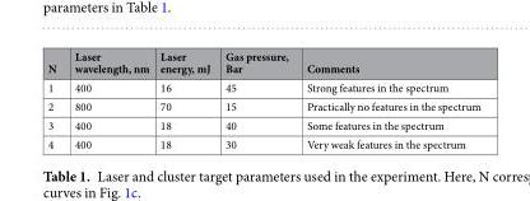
<table><thead><tr><td>N</td><td>Laser wavelength, nm</td><td>Laser energy, mJ</td><td>Gas pressure, Bar</td><td>Comments</td></tr></thead><tbody><tr><td>1</td><td>400</td><td>16</td><td>45</td><td>Strong features in the spectrum</td></tr><tr><td>2</td><td>800</td><td>70</td><td>15</td><td>Practically no features in the spectrum</td></tr><tr><td>3</td><td>400</td><td>18</td><td>40</td><td>Some features in the spectrum</td></tr><tr><td>4</td><td>400</td><td>18</td><td>30</td><td>Very weak features in the spectrum</td></tr></tbody></table>